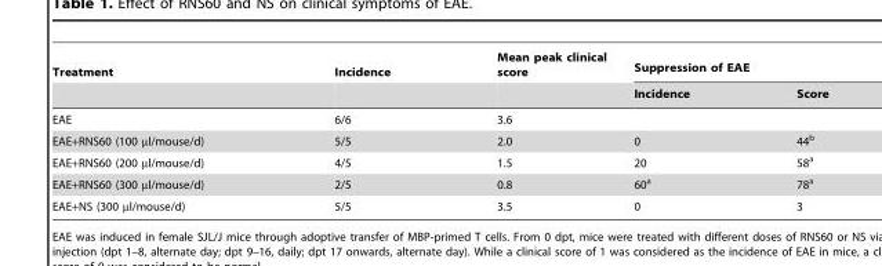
<table><thead><tr><td rowspan="2">Treatment</td><td rowspan="2">Incidence</td><td rowspan="2">Mean peak clinical score</td><td colspan="2">Suppression of EAE</td></tr><tr><td>Incidence</td><td>Score</td></tr></thead><tbody><tr><td>EAE</td><td>6/6</td><td>3.6</td><td></td><td></td></tr><tr><td>EAE+RNS60 (100 µl/mouse/d)</td><td>5/5</td><td>2.0</td><td>0</td><td>44<sup>b</sup></td></tr><tr><td>EAE+RNS60 (200 µl/mouse/d)</td><td>4/5</td><td>1.5</td><td>20</td><td>58<sup>a</sup></td></tr><tr><td>EAE+RNS60 (300 µl/mouse/d)</td><td>2/5</td><td>0.8</td><td>60<sup>a</sup></td><td>78<sup>a</sup></td></tr><tr><td>EAE+NS (300 µl/mouse/d)</td><td>5/5</td><td>3.5</td><td>0</td><td>3</td></tr></tbody></table>